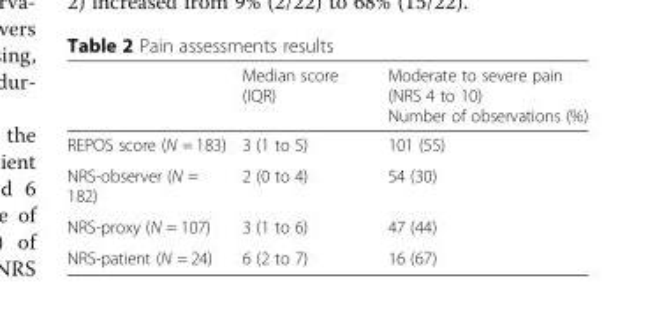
<table><thead><tr><td></td><td>Median score (IQR)</td><td>Moderate to severe pain (NRS 4 to 10) Number of observations (%)</td></tr></thead><tbody><tr><td>REPOS score (N = 183)</td><td>3 (1 to 5)</td><td>101 (55)</td></tr><tr><td>NRS-observer (N = 182)</td><td>2 (0 to 4)</td><td>54 (30)</td></tr><tr><td>NRS-proxy (N = 107)</td><td>3 (1 to 6)</td><td>47 (44)</td></tr><tr><td>NRS-patient (N = 24)</td><td>6 (2 to 7)</td><td>16 (67)</td></tr></tbody></table>